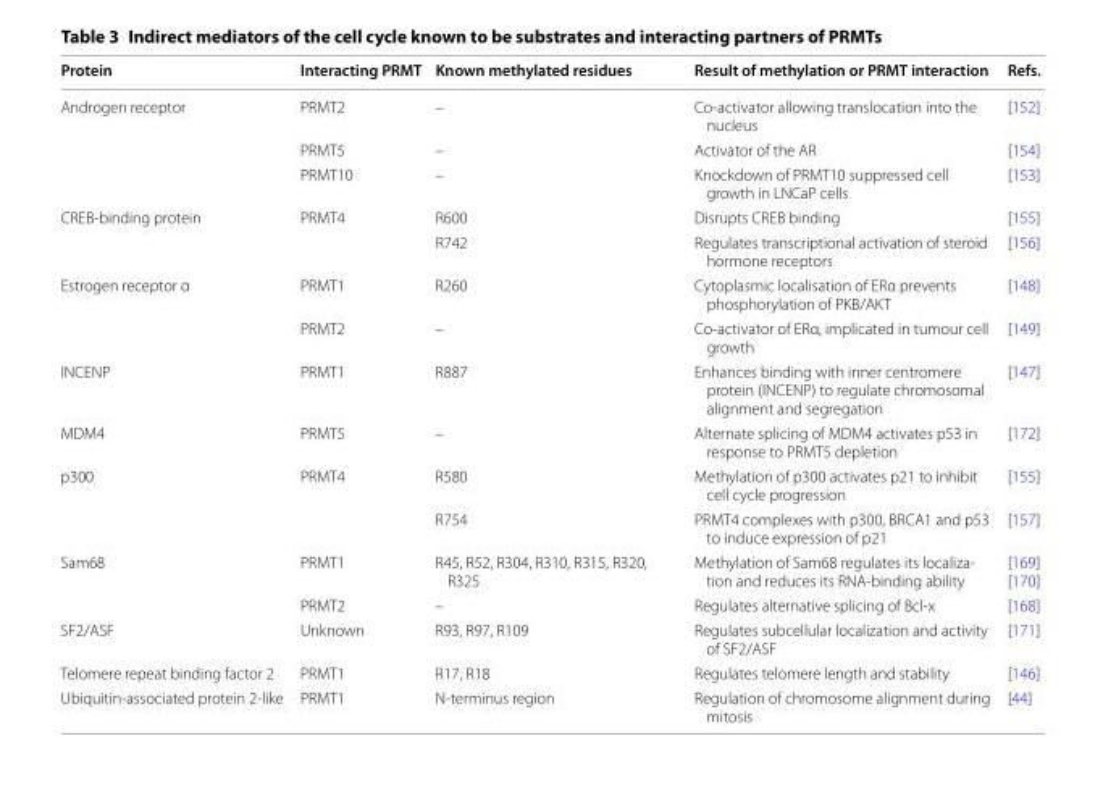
<table><thead><tr><td>Protein</td><td>Interacting PRMT</td><td>Known methylated residues</td><td>Result of methylation or PRMT interaction</td><td>Refs.</td></tr></thead><tbody><tr><td rowspan="3">Androgen receptor</td><td>PRMT2</td><td>–</td><td>Co-activator allowing translocation into the nucleus</td><td>[152]</td></tr><tr><td>PRMT5</td><td>–</td><td>Activator of the AR</td><td>[154]</td></tr><tr><td>PRMT10</td><td>–</td><td>Knockdown of PRMT10 suppressed cell growth in LNCaP cells</td><td>[153]</td></tr><tr><td rowspan="2">CREB-binding protein</td><td rowspan="2">PRMT4</td><td>R600</td><td>Disrupts CREB binding</td><td>[155]</td></tr><tr><td>R742</td><td>Regulates transcriptional activation of steroid hormone receptors</td><td>[156]</td></tr><tr><td rowspan="2">Estrogen receptor α</td><td>PRMT1</td><td>R260</td><td>Cytoplasmic localisation of ERα prevents phosphorylation of PKB/AKT</td><td>[148]</td></tr><tr><td>PRMT2</td><td>–</td><td>Co-activator of ERα, implicated in tumour cell growth</td><td>[149]</td></tr><tr><td>INCENP</td><td>PRMT1</td><td>R887</td><td>Enhances binding with inner centromere protein (INCENP) to regulate chromosomal alignment and segregation</td><td>[147]</td></tr><tr><td>MDM4</td><td>PRMT5</td><td>–</td><td>Alternate splicing of MDM4 activates p53 in response to PRMT5 depletion</td><td>[172]</td></tr><tr><td rowspan="2">p300</td><td rowspan="2">PRMT4</td><td>R580</td><td>Methylation of p300 activates p21 to inhibit cell cycle progression</td><td>[155]</td></tr><tr><td>R754</td><td>PRMT4 complexes with p300, BRCA1 and p53 to induce expression of p21</td><td>[157]</td></tr><tr><td rowspan="2">Sam68</td><td>PRMT1</td><td>R45, R52, R304, R310, R315, R320, R325</td><td>Methylation of Sam68 regulates its localiza- tion and reduces its RNA-binding ability</td><td>[169] [170]</td></tr><tr><td>PRMT2</td><td>–</td><td>Regulates alternative splicing of Bcl-x</td><td>[168]</td></tr><tr><td>SF2/ASF</td><td>Unknown</td><td>R93, R97, R109</td><td>Regulates subcellular localization and activity of SF2/ASF</td><td>[171]</td></tr><tr><td>Telomere repeat binding factor 2</td><td>PRMT1</td><td>R17, R18</td><td>Regulates telomere length and stability</td><td>[146]</td></tr><tr><td>Ubiquitin-associated protein 2-like</td><td>PRMT1</td><td>N-terminus region</td><td>Regulation of chromosome alignment during mitosis</td><td>[44]</td></tr></tbody></table>